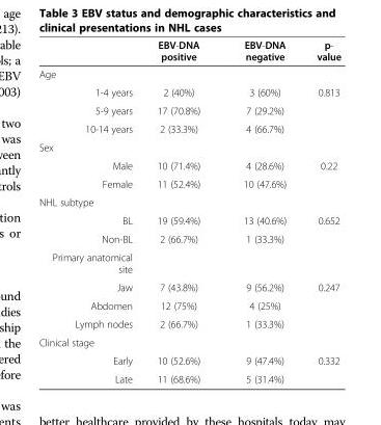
<table><thead><tr><td></td><td>EBV-DNA positive</td><td>EBV-DNA negative</td><td>p- value</td></tr></thead><tbody><tr><td colspan="4">Age</td></tr><tr><td>1-4 years</td><td>2 (40%)</td><td>3 (60%)</td><td>0.813</td></tr><tr><td>5-9 years</td><td>17 (70.8%)</td><td>7 (29.2%)</td><td></td></tr><tr><td>10-14 years</td><td>2 (33.3%)</td><td>4 (66.7%)</td><td></td></tr><tr><td colspan="4">Sex</td></tr><tr><td>Male</td><td>10 (71.4%)</td><td>4 (28.6%)</td><td>0.22</td></tr><tr><td>Female</td><td>11 (52.4%)</td><td>10 (47.6%)</td><td></td></tr><tr><td colspan="4">NHL subtype</td></tr><tr><td>BL</td><td>19 (59.4%)</td><td>13 (40.6%)</td><td>0.652</td></tr><tr><td>Non-BL</td><td>2 (66.7%)</td><td>1 (33.3%)</td><td></td></tr><tr><td colspan="4">Primary anatomical site</td></tr><tr><td>Jaw</td><td>7 (43.8%)</td><td>9 (56.2%)</td><td>0.247</td></tr><tr><td>Abdomen</td><td>12 (75%)</td><td>4 (25%)</td><td></td></tr><tr><td>Lymph nodes</td><td>2 (66.7%)</td><td>1 (33.3%)</td><td></td></tr><tr><td colspan="4">Clinical stage</td></tr><tr><td>Early</td><td>10 (52.6%)</td><td>9 (47.4%)</td><td>0.332</td></tr><tr><td>Late</td><td>11 (68.6%)</td><td>5 (31.4%)</td><td></td></tr></tbody></table>